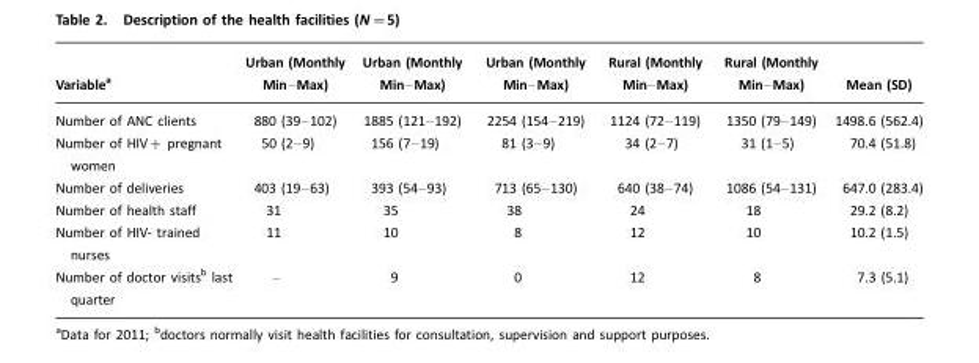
<table><thead><tr><td>Variable<sup>a</sup></td><td>Urban (Monthly Min–Max)</td><td>Urban (Monthly Min–Max)</td><td>Urban (Monthly Min–Max)</td><td>Rural (Monthly Min–Max)</td><td>Rural (Monthly Min–Max)</td><td>Mean (SD)</td></tr></thead><tbody><tr><td>Number of ANC clients</td><td>880 (39–102)</td><td>1885 (121–192)</td><td>2254 (154–219)</td><td>1124 (72–119)</td><td>1350 (79–149)</td><td>1498.6 (562.4)</td></tr><tr><td>Number of HIV+ pregnant women</td><td>50 (2–9)</td><td>156 (7–19)</td><td>81 (3–9)</td><td>34 (2–7)</td><td>31 (1–5)</td><td>70.4 (51.8)</td></tr><tr><td>Number of deliveries</td><td>403 (19–63)</td><td>393 (54–93)</td><td>713 (65–130)</td><td>640 (38–74)</td><td>1086 (54–131)</td><td>647.0 (283.4)</td></tr><tr><td>Number of health staff</td><td>31</td><td>35</td><td>38</td><td>24</td><td>18</td><td>29.2 (8.2)</td></tr><tr><td>Number of HIV- trained nurses</td><td>11</td><td>10</td><td>8</td><td>12</td><td>10</td><td>10.2 (1.5)</td></tr><tr><td>Number of doctor visits<sup>b</sup> last quarter</td><td>–</td><td>9</td><td>0</td><td>12</td><td>8</td><td>7.3 (5.1)</td></tr></tbody></table>